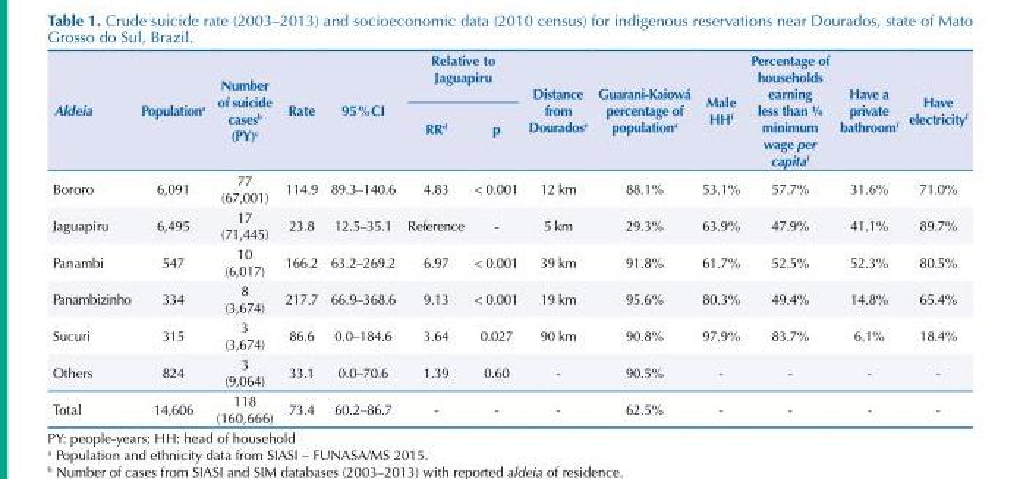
<table><thead><tr><td rowspan="2">Aldeia</td><td rowspan="2">Population<sup>a</sup></td><td rowspan="2">Number of suicide cases<sup>b</sup> (PY)<sup>c</sup></td><td rowspan="2">Rate</td><td rowspan="2">95%CI</td><td colspan="2">Relative to Jaguapiru</td><td rowspan="2">Distance from Dourados<sup>e</sup></td><td rowspan="2">Guarani-Kaiowá percentage of population<sup>a</sup></td><td rowspan="2">Male HH<sup>f</sup></td><td rowspan="2">Percentage of households earning less than ¼ minimum wage per capitaf</td><td rowspan="2">Have a private bathroom<sup>f</sup></td><td rowspan="2">Have electricity<sup>f</sup></td></tr><tr><td>RR<sup>d</sup></td><td>p</td></tr></thead><tbody><tr><td>Bororo</td><td>6,091</td><td>77 (67,001)</td><td>114.9</td><td>89.3–140.6</td><td>4.83</td><td>&lt; 0.001</td><td>12 km</td><td>88.1%</td><td>53.1%</td><td>57.7%</td><td>31.6%</td><td>71.0%</td></tr><tr><td>Jaguapiru</td><td>6,495</td><td>17 (71,445)</td><td>23.8</td><td>12.5–35.1</td><td>Reference</td><td>-</td><td>5 km</td><td>29.3%</td><td>63.9%</td><td>47.9%</td><td>41.1%</td><td>89.7%</td></tr><tr><td>Panambi</td><td>547</td><td>10 (6,017)</td><td>166.2</td><td>63.2–269.2</td><td>6.97</td><td>&lt; 0.001</td><td>39 km</td><td>91.8%</td><td>61.7%</td><td>52.5%</td><td>52.3%</td><td>80.5%</td></tr><tr><td>Panambizinho</td><td>334</td><td>8 (3,674)</td><td>217.7</td><td>66.9–368.6</td><td>9.13</td><td>&lt; 0.001</td><td>19 km</td><td>95.6%</td><td>80.3%</td><td>49.4%</td><td>14.8%</td><td>65.4%</td></tr><tr><td>Sucuri</td><td>315</td><td>3 (3,674)</td><td>86.6</td><td>0.0–184.6</td><td>3.64</td><td>0.027</td><td>90 km</td><td>90.8%</td><td>97.9%</td><td>83.7%</td><td>6.1%</td><td>18.4%</td></tr><tr><td>Others</td><td>824</td><td>3 (9,064)</td><td>33.1</td><td>0.0–70.6</td><td>1.39</td><td>0.60</td><td>-</td><td>90.5%</td><td>-</td><td>-</td><td>-</td><td>-</td></tr><tr><td>Total</td><td>14,606</td><td>118 (160,666)</td><td>73.4</td><td>60.2–86.7</td><td>-</td><td>-</td><td>-</td><td>62.5%</td><td>-</td><td>-</td><td>-</td><td>-</td></tr></tbody></table>